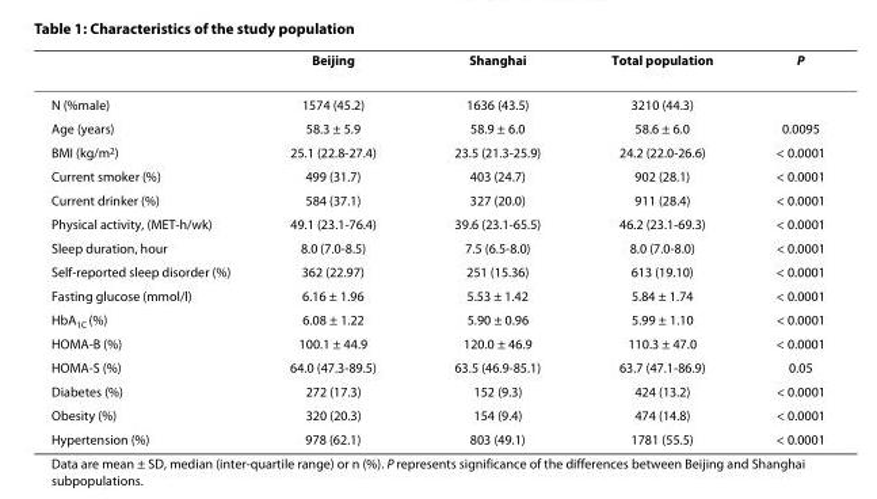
<table><thead><tr><td></td><td>Beijing</td><td>Shanghai</td><td>Total population</td><td>P</td></tr></thead><tbody><tr><td>N (%male)</td><td>1574 (45.2)</td><td>1636 (43.5)</td><td>3210 (44.3)</td><td></td></tr><tr><td>Age (years)</td><td>58.3 ± 5.9</td><td>58.9 ± 6.0</td><td>58.6 ± 6.0</td><td>0.0095</td></tr><tr><td>BMI (kg/m<sup>2</sup>)</td><td>25.1 (22.8-27.4)</td><td>23.5 (21.3-25.9)</td><td>24.2 (22.0-26.6)</td><td>&lt; 0.0001</td></tr><tr><td>Current smoker (%)</td><td>499 (31.7)</td><td>403 (24.7)</td><td>902 (28.1)</td><td>&lt; 0.0001</td></tr><tr><td>Current drinker (%)</td><td>584 (37.1)</td><td>327 (20.0)</td><td>911 (28.4)</td><td>&lt; 0.0001</td></tr><tr><td>Physical activity, (MET-h/wk)</td><td>49.1 (23.1-76.4)</td><td>39.6 (23.1-65.5)</td><td>46.2 (23.1-69.3)</td><td>&lt; 0.0001</td></tr><tr><td>Sleep duration, hour</td><td>8.0 (7.0-8.5)</td><td>7.5 (6.5-8.0)</td><td>8.0 (7.0-8.0)</td><td>&lt; 0.0001</td></tr><tr><td>Self-reported sleep disorder (%)</td><td>362 (22.97)</td><td>251 (15.36)</td><td>613 (19.10)</td><td>&lt; 0.0001</td></tr><tr><td>Fasting glucose (mmol/l)</td><td>6.16 ± 1.96</td><td>5.53 ± 1.42</td><td>5.84 ± 1.74</td><td>&lt; 0.0001</td></tr><tr><td>HbA<sub>1C</sub> (%)</td><td>6.08 ± 1.22</td><td>5.90 ± 0.96</td><td>5.99 ± 1.10</td><td>&lt; 0.0001</td></tr><tr><td>HOMA-B (%)</td><td>100.1 ± 44.9</td><td>120.0 ± 46.9</td><td>110.3 ± 47.0</td><td>&lt; 0.0001</td></tr><tr><td>HOMA-S (%)</td><td>64.0 (47.3-89.5)</td><td>63.5 (46.9-85.1)</td><td>63.7 (47.1-86.9)</td><td>0.05</td></tr><tr><td>Diabetes (%)</td><td>272 (17.3)</td><td>152 (9.3)</td><td>424 (13.2)</td><td>&lt; 0.0001</td></tr><tr><td>Obesity (%)</td><td>320 (20.3)</td><td>154 (9.4)</td><td>474 (14.8)</td><td>&lt; 0.0001</td></tr><tr><td>Hypertension (%)</td><td>978 (62.1)</td><td>803 (49.1)</td><td>1781 (55.5)</td><td>&lt; 0.0001</td></tr></tbody></table>